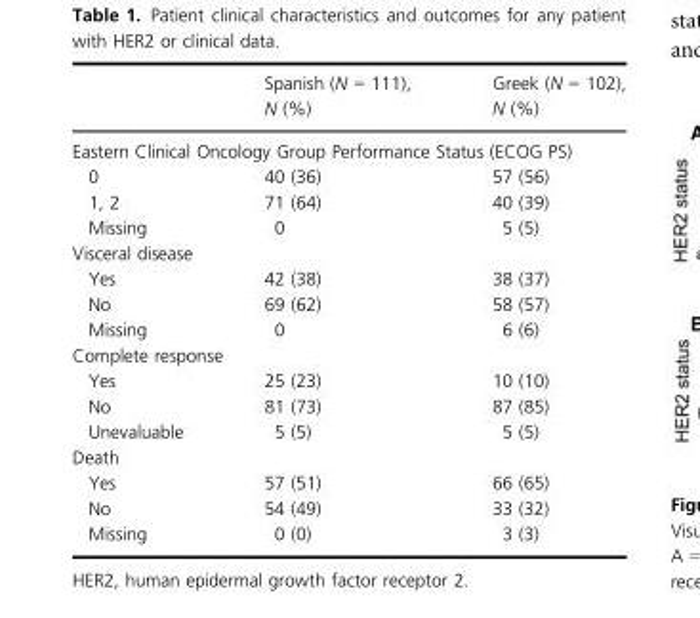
<table><thead><tr><td></td><td>Spanish (N = 111), N (%)</td><td>Greek (N = 102), N (%)</td></tr></thead><tbody><tr><td colspan="3">Eastern Clinical Oncology Group Performance Status (ECOG PS)</td></tr><tr><td>0</td><td>40 (36)</td><td>57 (56)</td></tr><tr><td>1, 2</td><td>71 (64)</td><td>40 (39)</td></tr><tr><td>Missing</td><td>0</td><td>5 (5)</td></tr><tr><td colspan="3">Visceral disease</td></tr><tr><td>Yes</td><td>42 (38)</td><td>38 (37)</td></tr><tr><td>No</td><td>69 (62)</td><td>58 (57)</td></tr><tr><td>Missing</td><td>0</td><td>6 (6)</td></tr><tr><td colspan="3">Complete response</td></tr><tr><td>Yes</td><td>25 (23)</td><td>10 (10)</td></tr><tr><td>No</td><td>81 (73)</td><td>87 (85)</td></tr><tr><td>Unevaluable</td><td>5 (5)</td><td>5 (5)</td></tr><tr><td colspan="3">Death</td></tr><tr><td>Yes</td><td>57 (51)</td><td>66 (65)</td></tr><tr><td>No</td><td>54 (49)</td><td>33 (32)</td></tr><tr><td>Missing</td><td>0 (0)</td><td>3 (3)</td></tr></tbody></table>